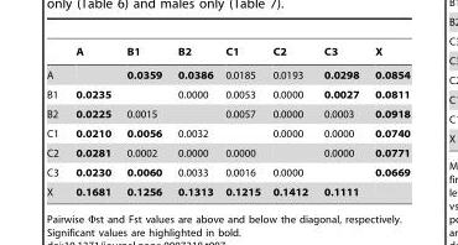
<table><thead><tr><td></td><td>A</td><td>B1</td><td>B2</td><td>C1</td><td>C2</td><td>C3</td><td>X</td></tr></thead><tbody><tr><td>A</td><td></td><td>0.0359</td><td>0.0386</td><td>0.0185</td><td>0.0193</td><td>0.0298</td><td>0.0854</td></tr><tr><td>B1</td><td>0.0235</td><td></td><td>0.0000</td><td>0.0053</td><td>0.0000</td><td>0.0027</td><td>0.0811</td></tr><tr><td>B2</td><td>0.0225</td><td>0.0015</td><td></td><td>0.0057</td><td>0.0000</td><td>0.0003</td><td>0.0918</td></tr><tr><td>C1</td><td>0.0210</td><td>0.0056</td><td>0.0032</td><td></td><td>0.0000</td><td>0.0000</td><td>0.0740</td></tr><tr><td>C2</td><td>0.0281</td><td>0.0002</td><td>0.0000</td><td>0.0000</td><td></td><td>0.0000</td><td>0.0771</td></tr><tr><td>C3</td><td>0.0230</td><td>0.0060</td><td>0.0033</td><td>0.0016</td><td>0.0000</td><td></td><td>0.0669</td></tr><tr><td>X</td><td>0.1681</td><td>0.1256</td><td>0.1313</td><td>0.1215</td><td>0.1412</td><td>0.1111</td><td></td></tr></tbody></table>